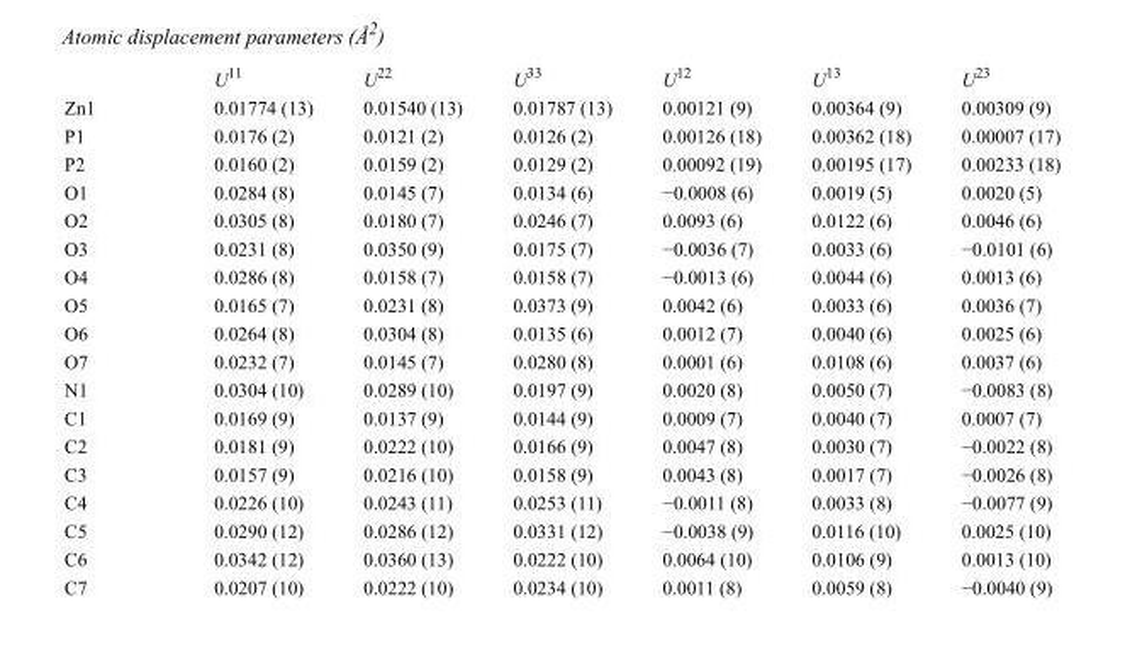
<table><thead><tr><td></td><td>U<sup>11</sup></td><td>U<sup>22</sup></td><td>U<sup>33</sup></td><td>U<sup>12</sup></td><td>U<sup>13</sup></td><td>U<sup>23</sup></td></tr></thead><tbody><tr><td>Zn1</td><td>0.01774 (13)</td><td>0.01540 (13)</td><td>0.01787 (13)</td><td>0.00121 (9)</td><td>0.00364 (9)</td><td>0.00309 (9)</td></tr><tr><td>P1</td><td>0.0176 (2)</td><td>0.0121 (2)</td><td>0.0126 (2)</td><td>0.00126 (18)</td><td>0.00362 (18)</td><td>0.00007 (17)</td></tr><tr><td>P2</td><td>0.0160 (2)</td><td>0.0159 (2)</td><td>0.0129 (2)</td><td>0.00092 (19)</td><td>0.00195 (17)</td><td>0.00233 (18)</td></tr><tr><td>O1</td><td>0.0284 (8)</td><td>0.0145 (7)</td><td>0.0134 (6)</td><td>−0.0008 (6)</td><td>0.0019 (5)</td><td>0.0020 (5)</td></tr><tr><td>O2</td><td>0.0305 (8)</td><td>0.0180 (7)</td><td>0.0246 (7)</td><td>0.0093 (6)</td><td>0.0122 (6)</td><td>0.0046 (6)</td></tr><tr><td>O3</td><td>0.0231 (8)</td><td>0.0350 (9)</td><td>0.0175 (7)</td><td>−0.0036 (7)</td><td>0.0033 (6)</td><td>−0.0101 (6)</td></tr><tr><td>O4</td><td>0.0286 (8)</td><td>0.0158 (7)</td><td>0.0158 (7)</td><td>−0.0013 (6)</td><td>0.0044 (6)</td><td>0.0013 (6)</td></tr><tr><td>O5</td><td>0.0165 (7)</td><td>0.0231 (8)</td><td>0.0373 (9)</td><td>0.0042 (6)</td><td>0.0033 (6)</td><td>0.0036 (7)</td></tr><tr><td>O6</td><td>0.0264 (8)</td><td>0.0304 (8)</td><td>0.0135 (6)</td><td>0.0012 (7)</td><td>0.0040 (6)</td><td>0.0025 (6)</td></tr><tr><td>O7</td><td>0.0232 (7)</td><td>0.0145 (7)</td><td>0.0280 (8)</td><td>0.0001 (6)</td><td>0.0108 (6)</td><td>0.0037 (6)</td></tr><tr><td>N1</td><td>0.0304 (10)</td><td>0.0289 (10)</td><td>0.0197 (9)</td><td>0.0020 (8)</td><td>0.0050 (7)</td><td>−0.0083 (8)</td></tr><tr><td>C1</td><td>0.0169 (9)</td><td>0.0137 (9)</td><td>0.0144 (9)</td><td>0.0009 (7)</td><td>0.0040 (7)</td><td>0.0007 (7)</td></tr><tr><td>C2</td><td>0.0181 (9)</td><td>0.0222 (10)</td><td>0.0166 (9)</td><td>0.0047 (8)</td><td>0.0030 (7)</td><td>−0.0022 (8)</td></tr><tr><td>C3</td><td>0.0157 (9)</td><td>0.0216 (10)</td><td>0.0158 (9)</td><td>0.0043 (8)</td><td>0.0017 (7)</td><td>−0.0026 (8)</td></tr><tr><td>C4</td><td>0.0226 (10)</td><td>0.0243 (11)</td><td>0.0253 (11)</td><td>−0.0011 (8)</td><td>0.0033 (8)</td><td>−0.0077 (9)</td></tr><tr><td>C5</td><td>0.0290 (12)</td><td>0.0286 (12)</td><td>0.0331 (12)</td><td>−0.0038 (9)</td><td>0.0116 (10)</td><td>0.0025 (10)</td></tr><tr><td>C6</td><td>0.0342 (12)</td><td>0.0360 (13)</td><td>0.0222 (10)</td><td>0.0064 (10)</td><td>0.0106 (9)</td><td>0.0013 (10)</td></tr><tr><td>C7</td><td>0.0207 (10)</td><td>0.0222 (10)</td><td>0.0234 (10)</td><td>0.0011 (8)</td><td>0.0059 (8)</td><td>−0.0040 (9)</td></tr></tbody></table>